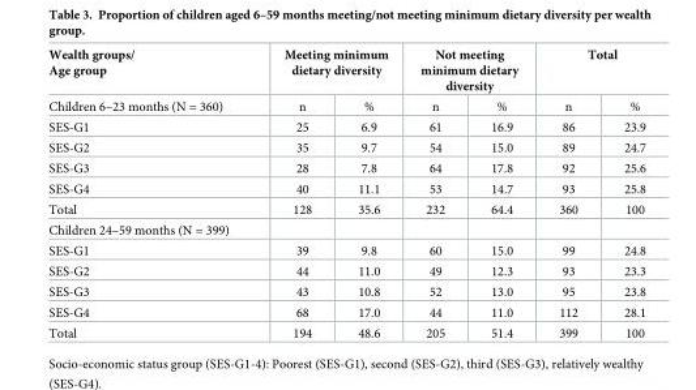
<table><thead><tr><td rowspan="2">Wealth groups/ Age group Children 6–23 months (N = 360)</td><td colspan="2">Meeting minimum dietary diversity</td><td colspan="2">Not meeting minimum dietary diversity</td><td colspan="2">Total</td></tr><tr><td>n</td><td>%</td><td>n</td><td>%</td><td>n</td><td>%</td></tr></thead><tbody><tr><td>SES-G1</td><td>25</td><td>6.9</td><td>61</td><td>16.9</td><td>86</td><td>23.9</td></tr><tr><td>SES-G2</td><td>35</td><td>9.7</td><td>54</td><td>15.0</td><td>89</td><td>24.7</td></tr><tr><td>SES-G3</td><td>28</td><td>7.8</td><td>64</td><td>17.8</td><td>92</td><td>25.6</td></tr><tr><td>SES-G4</td><td>40</td><td>11.1</td><td>53</td><td>14.7</td><td>93</td><td>25.8</td></tr><tr><td>Total</td><td>128</td><td>35.6</td><td>232</td><td>64.4</td><td>360</td><td>100</td></tr><tr><td colspan="7">Children 24–59 months (N = 399)</td></tr><tr><td>SES-G1</td><td>39</td><td>9.8</td><td>60</td><td>15.0</td><td>99</td><td>24.8</td></tr><tr><td>SES-G2</td><td>44</td><td>11.0</td><td>49</td><td>12.3</td><td>93</td><td>23.3</td></tr><tr><td>SES-G3</td><td>43</td><td>10.8</td><td>52</td><td>13.0</td><td>95</td><td>23.8</td></tr><tr><td>SES-G4</td><td>68</td><td>17.0</td><td>44</td><td>11.0</td><td>112</td><td>28.1</td></tr><tr><td>Total</td><td>194</td><td>48.6</td><td>205</td><td>51.4</td><td>399</td><td>100</td></tr></tbody></table>